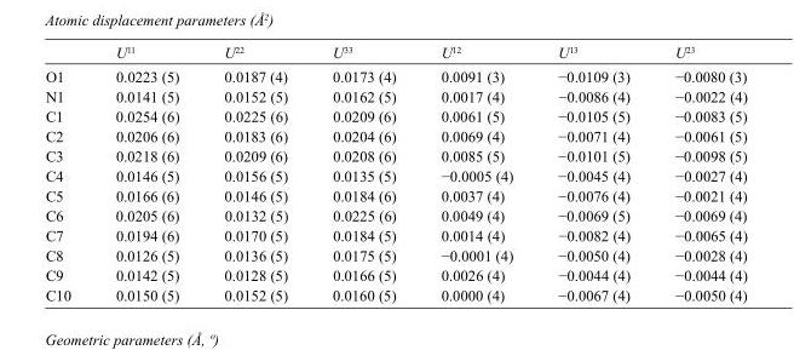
<table><thead><tr><td></td><td>U<sup>11</sup></td><td>U<sup>22</sup></td><td>U<sup>33</sup></td><td>U<sup>12</sup></td><td>U<sup>13</sup></td><td>U<sup>23</sup></td></tr></thead><tbody><tr><td>O1</td><td>0.0223 (5)</td><td>0.0187 (4)</td><td>0.0173 (4)</td><td>0.0091 (3)</td><td>−0.0109 (3)</td><td>−0.0080 (3)</td></tr><tr><td>N1</td><td>0.0141 (5)</td><td>0.0152 (5)</td><td>0.0162 (5)</td><td>0.0017 (4)</td><td>−0.0086 (4)</td><td>−0.0022 (4)</td></tr><tr><td>C1</td><td>0.0254 (6)</td><td>0.0225 (6)</td><td>0.0209 (6)</td><td>0.0061 (5)</td><td>−0.0105 (5)</td><td>−0.0083 (5)</td></tr><tr><td>C2</td><td>0.0206 (6)</td><td>0.0183 (6)</td><td>0.0204 (6)</td><td>0.0069 (4)</td><td>−0.0071 (4)</td><td>−0.0061 (5)</td></tr><tr><td>C3</td><td>0.0218 (6)</td><td>0.0209 (6)</td><td>0.0208 (6)</td><td>0.0085 (5)</td><td>−0.0101 (5)</td><td>−0.0098 (5)</td></tr><tr><td>C4</td><td>0.0146 (5)</td><td>0.0156 (5)</td><td>0.0135 (5)</td><td>−0.0005 (4)</td><td>−0.0045 (4)</td><td>−0.0027 (4)</td></tr><tr><td>C5</td><td>0.0166 (6)</td><td>0.0146 (5)</td><td>0.0184 (6)</td><td>0.0037 (4)</td><td>−0.0076 (4)</td><td>−0.0021 (4)</td></tr><tr><td>C6</td><td>0.0205 (6)</td><td>0.0132 (5)</td><td>0.0225 (6)</td><td>0.0049 (4)</td><td>−0.0069 (5)</td><td>−0.0069 (4)</td></tr><tr><td>C7</td><td>0.0194 (6)</td><td>0.0170 (5)</td><td>0.0184 (5)</td><td>0.0014 (4)</td><td>−0.0082 (4)</td><td>−0.0065 (4)</td></tr><tr><td>C8</td><td>0.0126 (5)</td><td>0.0136 (5)</td><td>0.0175 (5)</td><td>−0.0001 (4)</td><td>−0.0050 (4)</td><td>−0.0028 (4)</td></tr><tr><td>C9</td><td>0.0142 (5)</td><td>0.0128 (5)</td><td>0.0166 (5)</td><td>0.0026 (4)</td><td>−0.0044 (4)</td><td>−0.0044 (4)</td></tr><tr><td>C10</td><td>0.0150 (5)</td><td>0.0152 (5)</td><td>0.0160 (5)</td><td>0.0000 (4)</td><td>−0.0067 (4)</td><td>−0.0050 (4)</td></tr></tbody></table>